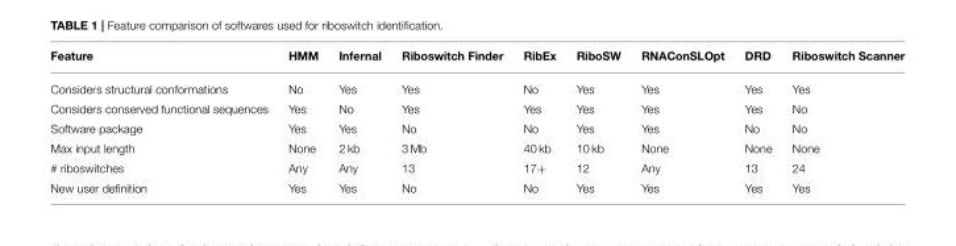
<table><thead><tr><td>Feature</td><td>HMM</td><td>Infernal</td><td>Riboswitch Finder</td><td>RibEx</td><td>RiboSW</td><td>RNAConSLOpt</td><td>DRD</td><td>Riboswitch Scanner</td></tr></thead><tbody><tr><td>Considers structural conformations</td><td>No</td><td>Yes</td><td>Yes</td><td>No</td><td>Yes</td><td>Yes</td><td>Yes</td><td>Yes</td></tr><tr><td>Considers conserved functional sequences</td><td>Yes</td><td>No</td><td>Yes</td><td>Yes</td><td>Yes</td><td>Yes</td><td>Yes</td><td>No</td></tr><tr><td>Software package</td><td>Yes</td><td>Yes</td><td>No</td><td>No</td><td>Yes</td><td>Yes</td><td>No</td><td>No</td></tr><tr><td>Max input length</td><td>None</td><td>2 kb</td><td>3 Mb</td><td>40 kb</td><td>10 kb</td><td>None</td><td>None</td><td>None</td></tr><tr><td># riboswitches</td><td>Any</td><td>Any</td><td>13</td><td>17+</td><td>12</td><td>Any</td><td>13</td><td>24</td></tr><tr><td>New user definition</td><td>Yes</td><td>Yes</td><td>No</td><td>No</td><td>Yes</td><td>Yes</td><td>Yes</td><td>Yes</td></tr></tbody></table>